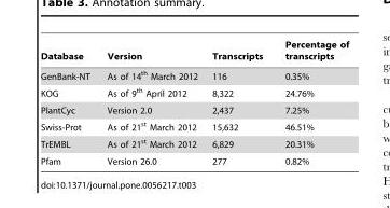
<table><thead><tr><td>Database</td><td>Version</td><td>Transcripts</td><td>Percentage of transcripts</td></tr></thead><tbody><tr><td>GenBank-NT</td><td>As of 14<sup>th</sup> March 2012</td><td>116</td><td>0.35%</td></tr><tr><td>KOG</td><td>As of 9<sup>th</sup> April 2012</td><td>8,322</td><td>24.76%</td></tr><tr><td>PlantCyc</td><td>Version 2.0</td><td>2,437</td><td>7.25%</td></tr><tr><td>Swiss-Prot</td><td>As of 21<sup>st</sup> March 2012</td><td>15,632</td><td>46.51%</td></tr><tr><td>TrEMBL</td><td>As of 21<sup>st</sup> March 2012</td><td>6,829</td><td>20.31%</td></tr><tr><td>Pfam</td><td>Version 26.0</td><td>277</td><td>0.82%</td></tr></tbody></table>